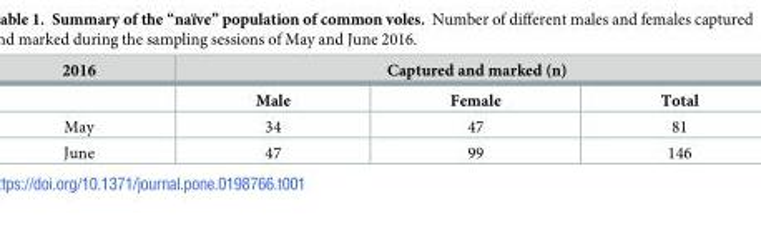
<table><thead><tr><td rowspan="2">2016</td><td colspan="3">Captured and marked (n)</td></tr><tr><td>Male</td><td>Female</td><td>Total</td></tr></thead><tbody><tr><td>May</td><td>34</td><td>47</td><td>81</td></tr><tr><td>June</td><td>47</td><td>99</td><td>146</td></tr></tbody></table>